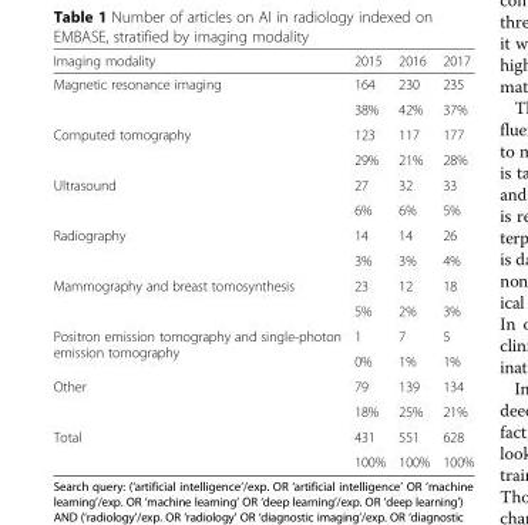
<table><thead><tr><td>Imaging modality</td><td>2015</td><td>2016</td><td>2017</td></tr></thead><tbody><tr><td rowspan="2">Magnetic resonance imaging</td><td>164</td><td>230</td><td>235</td></tr><tr><td>38%</td><td>42%</td><td>37%</td></tr><tr><td rowspan="2">Computed tomography</td><td>123</td><td>117</td><td>177</td></tr><tr><td>29%</td><td>21%</td><td>28%</td></tr><tr><td rowspan="2">Ultrasound</td><td>27</td><td>32</td><td>33</td></tr><tr><td>6%</td><td>6%</td><td>5%</td></tr><tr><td rowspan="2">Radiography</td><td>14</td><td>14</td><td>26</td></tr><tr><td>3%</td><td>3%</td><td>4%</td></tr><tr><td rowspan="2">Mammography and breast tomosynthesis</td><td>23</td><td>12</td><td>18</td></tr><tr><td>5%</td><td>2%</td><td>3%</td></tr><tr><td rowspan="2">Positron emission tomography and single-photon emission tomography</td><td>1</td><td>7</td><td>5</td></tr><tr><td>0%</td><td>1%</td><td>1%</td></tr><tr><td rowspan="2">Other</td><td>79</td><td>139</td><td>134</td></tr><tr><td>18%</td><td>25%</td><td>21%</td></tr><tr><td rowspan="2">Total</td><td>431</td><td>551</td><td>628</td></tr><tr><td>100%</td><td>100%</td><td>100%</td></tr></tbody></table>